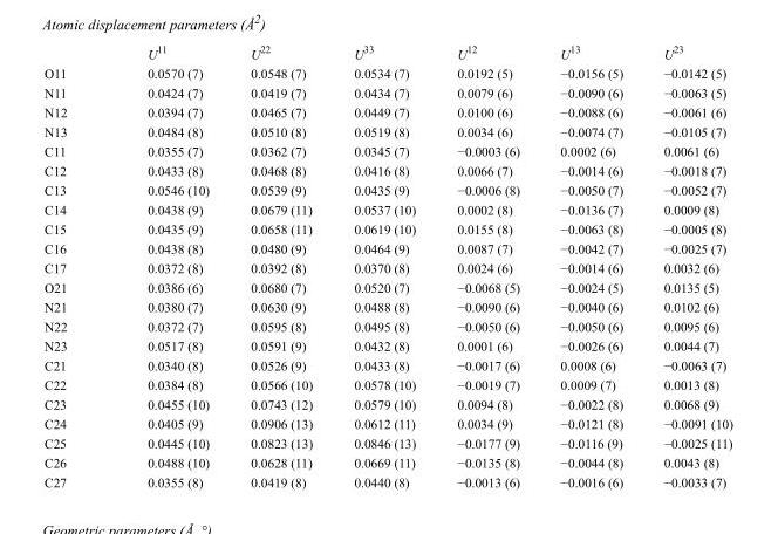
<table><thead><tr><td></td><td>U<sup>11</sup></td><td>U<sup>22</sup></td><td>U<sup>33</sup></td><td>U<sup>12</sup></td><td>U<sup>13</sup></td><td>U<sup>23</sup></td></tr></thead><tbody><tr><td>O11</td><td>0.0570 (7)</td><td>0.0548 (7)</td><td>0.0534 (7)</td><td>0.0192 (5)</td><td>−0.0156 (5)</td><td>−0.0142 (5)</td></tr><tr><td>N11</td><td>0.0424 (7)</td><td>0.0419 (7)</td><td>0.0434 (7)</td><td>0.0079 (6)</td><td>−0.0090 (6)</td><td>−0.0063 (5)</td></tr><tr><td>N12</td><td>0.0394 (7)</td><td>0.0465 (7)</td><td>0.0449 (7)</td><td>0.0100 (6)</td><td>−0.0088 (6)</td><td>−0.0061 (6)</td></tr><tr><td>N13</td><td>0.0484 (8)</td><td>0.0510 (8)</td><td>0.0519 (8)</td><td>0.0034 (6)</td><td>−0.0074 (7)</td><td>−0.0105 (7)</td></tr><tr><td>C11</td><td>0.0355 (7)</td><td>0.0362 (7)</td><td>0.0345 (7)</td><td>−0.0003 (6)</td><td>0.0002 (6)</td><td>0.0061 (6)</td></tr><tr><td>C12</td><td>0.0433 (8)</td><td>0.0468 (8)</td><td>0.0416 (8)</td><td>0.0066 (7)</td><td>−0.0014 (6)</td><td>−0.0018 (7)</td></tr><tr><td>C13</td><td>0.0546 (10)</td><td>0.0539 (9)</td><td>0.0435 (9)</td><td>−0.0006 (8)</td><td>−0.0050 (7)</td><td>−0.0052 (7)</td></tr><tr><td>C14</td><td>0.0438 (9)</td><td>0.0679 (11)</td><td>0.0537 (10)</td><td>0.0002 (8)</td><td>−0.0136 (7)</td><td>0.0009 (8)</td></tr><tr><td>C15</td><td>0.0435 (9)</td><td>0.0658 (11)</td><td>0.0619 (10)</td><td>0.0155 (8)</td><td>−0.0063 (8)</td><td>−0.0005 (8)</td></tr><tr><td>C16</td><td>0.0438 (8)</td><td>0.0480 (9)</td><td>0.0464 (9)</td><td>0.0087 (7)</td><td>−0.0042 (7)</td><td>−0.0025 (7)</td></tr><tr><td>C17</td><td>0.0372 (8)</td><td>0.0392 (8)</td><td>0.0370 (8)</td><td>0.0024 (6)</td><td>−0.0014 (6)</td><td>0.0032 (6)</td></tr><tr><td>O21</td><td>0.0386 (6)</td><td>0.0680 (7)</td><td>0.0520 (7)</td><td>−0.0068 (5)</td><td>−0.0024 (5)</td><td>0.0135 (5)</td></tr><tr><td>N21</td><td>0.0380 (7)</td><td>0.0630 (9)</td><td>0.0488 (8)</td><td>−0.0090 (6)</td><td>−0.0040 (6)</td><td>0.0102 (6)</td></tr><tr><td>N22</td><td>0.0372 (7)</td><td>0.0595 (8)</td><td>0.0495 (8)</td><td>−0.0050 (6)</td><td>−0.0050 (6)</td><td>0.0095 (6)</td></tr><tr><td>N23</td><td>0.0517 (8)</td><td>0.0591 (9)</td><td>0.0432 (8)</td><td>0.0001 (6)</td><td>−0.0026 (6)</td><td>0.0044 (7)</td></tr><tr><td>C21</td><td>0.0340 (8)</td><td>0.0526 (9)</td><td>0.0433 (8)</td><td>−0.0017 (6)</td><td>0.0008 (6)</td><td>−0.0063 (7)</td></tr><tr><td>C22</td><td>0.0384 (8)</td><td>0.0566 (10)</td><td>0.0578 (10)</td><td>−0.0019 (7)</td><td>0.0009 (7)</td><td>0.0013 (8)</td></tr><tr><td>C23</td><td>0.0455 (10)</td><td>0.0743 (12)</td><td>0.0579 (10)</td><td>0.0094 (8)</td><td>−0.0022 (8)</td><td>0.0068 (9)</td></tr><tr><td>C24</td><td>0.0405 (9)</td><td>0.0906 (13)</td><td>0.0612 (11)</td><td>0.0034 (9)</td><td>−0.0121 (8)</td><td>−0.0091 (10)</td></tr><tr><td>C25</td><td>0.0445 (10)</td><td>0.0823 (13)</td><td>0.0846 (13)</td><td>−0.0177 (9)</td><td>−0.0116 (9)</td><td>−0.0025 (11)</td></tr><tr><td>C26</td><td>0.0488 (10)</td><td>0.0628 (11)</td><td>0.0669 (11)</td><td>−0.0135 (8)</td><td>−0.0044 (8)</td><td>0.0043 (8)</td></tr><tr><td>C27</td><td>0.0355 (8)</td><td>0.0419 (8)</td><td>0.0440 (8)</td><td>−0.0013 (6)</td><td>−0.0016 (6)</td><td>−0.0033 (7)</td></tr></tbody></table>